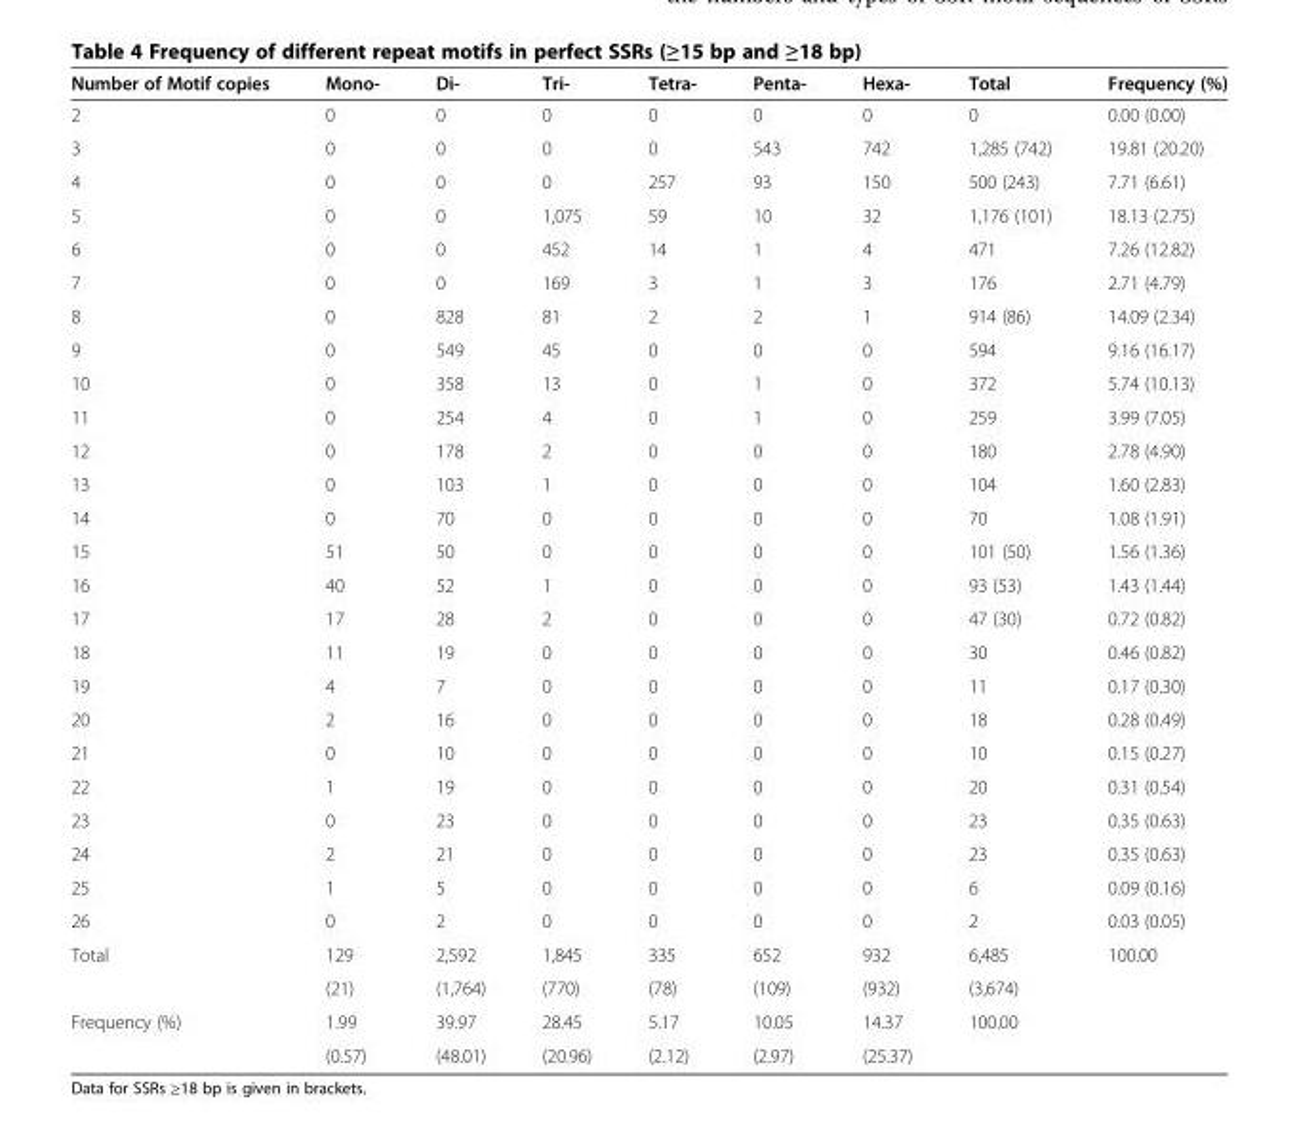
<table><thead><tr><td>Number of Motif copies</td><td>Mono-</td><td>Di-</td><td>Tri-</td><td>Tetra-</td><td>Penta-</td><td>Hexa-</td><td>Total</td><td>Frequency (%)</td></tr></thead><tbody><tr><td>2</td><td>0</td><td>0</td><td>0</td><td>0</td><td>0</td><td>0</td><td>0</td><td>0.00 (0.00)</td></tr><tr><td>3</td><td>0</td><td>0</td><td>0</td><td>0</td><td>543</td><td>742</td><td>1,285 (742)</td><td>19.81 (20.20)</td></tr><tr><td>4</td><td>0</td><td>0</td><td>0</td><td>257</td><td>93</td><td>150</td><td>500 (243)</td><td>7.71 (6.61)</td></tr><tr><td>5</td><td>0</td><td>0</td><td>1,075</td><td>59</td><td>10</td><td>32</td><td>1,176 (101)</td><td>18.13 (2.75)</td></tr><tr><td>6</td><td>0</td><td>0</td><td>452</td><td>14</td><td>1</td><td>4</td><td>471</td><td>7.26 (12.82)</td></tr><tr><td>7</td><td>0</td><td>0</td><td>169</td><td>3</td><td>1</td><td>3</td><td>176</td><td>2.71 (4.79)</td></tr><tr><td>8</td><td>0</td><td>828</td><td>81</td><td>2</td><td>2</td><td>1</td><td>914 (86)</td><td>14.09 (2.34)</td></tr><tr><td>9</td><td>0</td><td>549</td><td>45</td><td>0</td><td>0</td><td>0</td><td>594</td><td>9.16 (16.17)</td></tr><tr><td>10</td><td>0</td><td>358</td><td>13</td><td>0</td><td>1</td><td>0</td><td>372</td><td>5.74 (10.13)</td></tr><tr><td>11</td><td>0</td><td>254</td><td>4</td><td>0</td><td>1</td><td>0</td><td>259</td><td>3.99 (7.05)</td></tr><tr><td>12</td><td>0</td><td>178</td><td>2</td><td>0</td><td>0</td><td>0</td><td>180</td><td>2.78 (4.90)</td></tr><tr><td>13</td><td>0</td><td>103</td><td>1</td><td>0</td><td>0</td><td>0</td><td>104</td><td>1.60 (2.83)</td></tr><tr><td>14</td><td>0</td><td>70</td><td>0</td><td>0</td><td>0</td><td>0</td><td>70</td><td>1.08 (1.91)</td></tr><tr><td>15</td><td>51</td><td>50</td><td>0</td><td>0</td><td>0</td><td>0</td><td>101 (50)</td><td>1.56 (1.36)</td></tr><tr><td>16</td><td>40</td><td>52</td><td>1</td><td>0</td><td>0</td><td>0</td><td>93 (53)</td><td>1.43 (1.44)</td></tr><tr><td>17</td><td>17</td><td>28</td><td>2</td><td>0</td><td>0</td><td>0</td><td>47 (30)</td><td>0.72 (0.82)</td></tr><tr><td>18</td><td>11</td><td>19</td><td>0</td><td>0</td><td>0</td><td>0</td><td>30</td><td>0.46 (0.82)</td></tr><tr><td>19</td><td>4</td><td>7</td><td>0</td><td>0</td><td>0</td><td>0</td><td>11</td><td>0.17 (0.30)</td></tr><tr><td>20</td><td>2</td><td>16</td><td>0</td><td>0</td><td>0</td><td>0</td><td>18</td><td>0.28 (0.49)</td></tr><tr><td>21</td><td>0</td><td>10</td><td>0</td><td>0</td><td>0</td><td>0</td><td>10</td><td>0.15 (0.27)</td></tr><tr><td>22</td><td>1</td><td>19</td><td>0</td><td>0</td><td>0</td><td>0</td><td>20</td><td>0.31 (0.54)</td></tr><tr><td>23</td><td>0</td><td>23</td><td>0</td><td>0</td><td>0</td><td>0</td><td>23</td><td>0.35 (0.63)</td></tr><tr><td>24</td><td>2</td><td>21</td><td>0</td><td>0</td><td>0</td><td>0</td><td>23</td><td>0.35 (0.63)</td></tr><tr><td>25</td><td>1</td><td>5</td><td>0</td><td>0</td><td>0</td><td>0</td><td>6</td><td>0.09 (0.16)</td></tr><tr><td>26</td><td>0</td><td>2</td><td>0</td><td>0</td><td>0</td><td>0</td><td>2</td><td>0.03 (0.05)</td></tr><tr><td rowspan="2">Total</td><td>129</td><td>2,592</td><td>1,845</td><td>335</td><td>652</td><td>932</td><td>6,485</td><td rowspan="2">100.00</td></tr><tr><td>(21)</td><td>(1,764)</td><td>(770)</td><td>(78)</td><td>(109)</td><td>(932)</td><td>(3,674)</td></tr><tr><td rowspan="2">Frequency (%)</td><td>1.99</td><td>39.97</td><td>28.45</td><td>5.17</td><td>10.05</td><td>14.37</td><td>100.00</td><td></td></tr><tr><td>(0.57)</td><td>(48.01)</td><td>(20.96)</td><td>(2.12)</td><td>(2.97)</td><td>(25.37)</td><td></td><td></td></tr></tbody></table>